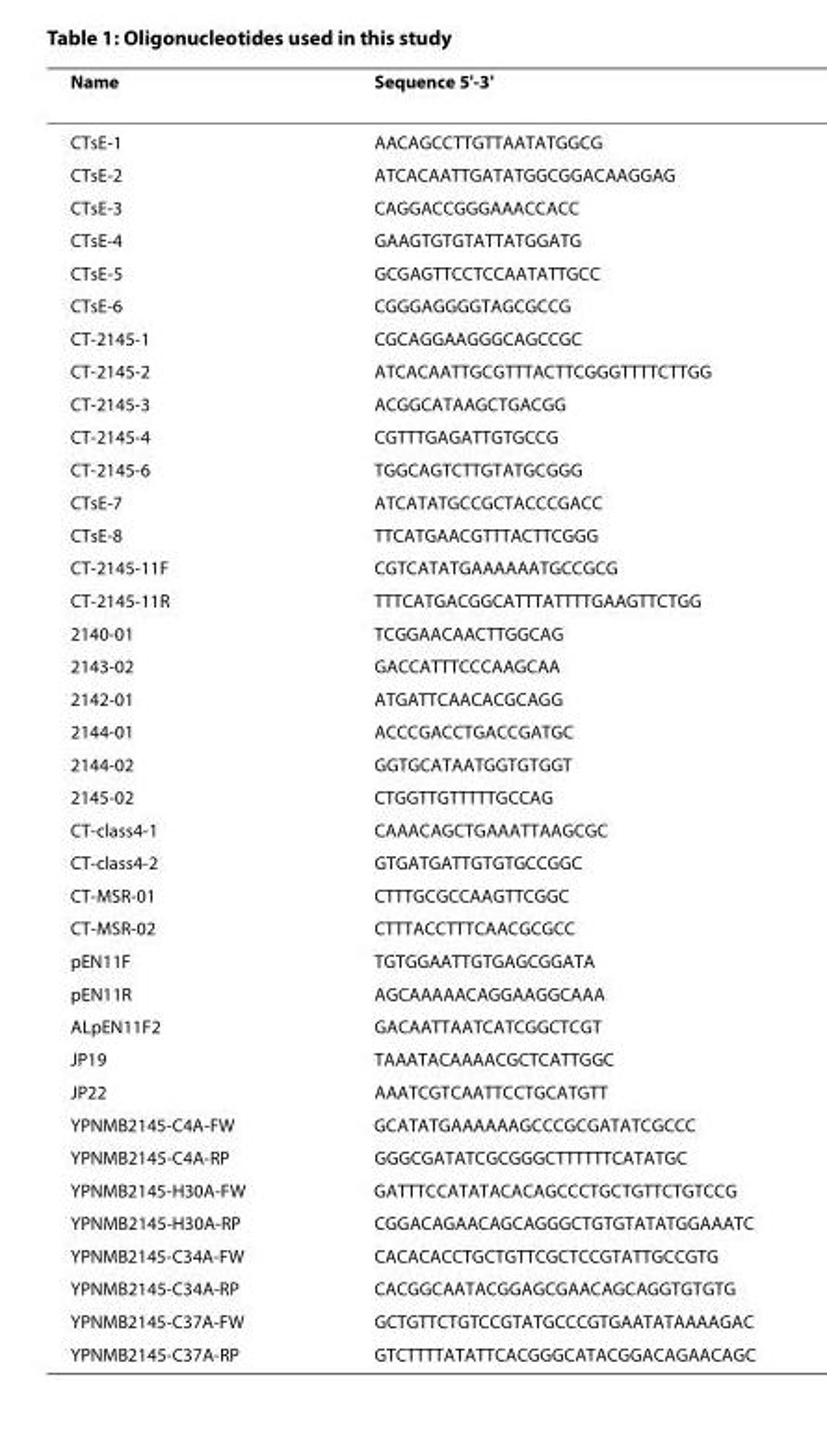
<table><thead><tr><td>Name</td><td>Sequence 5&#x27;-3&#x27;</td></tr></thead><tbody><tr><td>CTsE-1</td><td>AACAGCCTTGTTAATATGGCG</td></tr><tr><td>CTsE-2</td><td>ATCACAATTGATATGGCGGACAAGGAG</td></tr><tr><td>CTsE-3</td><td>CAGGACCGGGAAACCACC</td></tr><tr><td>CTsE-4</td><td>GAAGTGTGTATTATGGATG</td></tr><tr><td>CTsE-5</td><td>GCGAGTTCCTCCAATATTGCC</td></tr><tr><td>CTsE-6</td><td>CGGGAGGGGTAGCGCCG</td></tr><tr><td>CT-2145-1</td><td>CGCAGGAAGGGCAGCCGC</td></tr><tr><td>CT-2145-2</td><td>ATCACAATTGCGTTTACTTCGGGTTTTCTTGG</td></tr><tr><td>CT-2145-3</td><td>ACGGCATAAGCTGACGG</td></tr><tr><td>CT-2145-4</td><td>CGTTTGAGATTGTGCCG</td></tr><tr><td>CT-2145-6</td><td>TGGCAGTCTTGTATGCGGG</td></tr><tr><td>CTsE-7</td><td>ATCATATGCCGCTACCCGACC</td></tr><tr><td>CTsE-8</td><td>TTCATGAACGTTTACTTCGGG</td></tr><tr><td>CT-2145-11F</td><td>CGTCATATGAAAAAATGCCGCG</td></tr><tr><td>CT-2145-11R</td><td>TTTCATGACGGCATTTATTTTGAAGTTCTGG</td></tr><tr><td>2140-01</td><td>TCGGAACAACTTGGCAG</td></tr><tr><td>2143-02</td><td>GACCATTTCCCAAGCAA</td></tr><tr><td>2142-01</td><td>ATGATTCAACACGCAGG</td></tr><tr><td>2144-01</td><td>ACCCGACCTGACCGATGC</td></tr><tr><td>2144-02</td><td>GGTGCATAATGGTGTGGT</td></tr><tr><td>2145-02</td><td>CTGGTTGTTTTTGCCAG</td></tr><tr><td>CT-class4-1</td><td>CAAACAGCTGAAATTAAGCGC</td></tr><tr><td>CT-class4-2</td><td>GTGATGATTGTGTGCCGGC</td></tr><tr><td>CT-MSR-01</td><td>CTTTGCGCCAAGTTCGGC</td></tr><tr><td>CT-MSR-02</td><td>CTTTACCTTTCAACGCGCC</td></tr><tr><td>pEN11F</td><td>TGTGGAATTGTGAGCGGATA</td></tr><tr><td>pEN11R</td><td>AGCAAAAACAGGAAGGCAAA</td></tr><tr><td>ALpEN11F2</td><td>GACAATTAATCATCGGCTCGT</td></tr><tr><td>JP19</td><td>TAAATACAAAACGCTCATTGGC</td></tr><tr><td>JP22</td><td>AAATCGTCAATTCCTGCATGTT</td></tr><tr><td>YPNMB2145-C4A-FW</td><td>GCATATGAAAAAAGCCCGCGATATCGCCC</td></tr><tr><td>YPNMB2145-C4A-RP</td><td>GGGCGATATCGCGGGCTTTTTTCATATGC</td></tr><tr><td>YPNMB2145-H30A-FW</td><td>GATTTCCATATACACAGCCCTGCTGTTCTGTCCG</td></tr><tr><td>YPNMB2145-H30A-RP</td><td>CGGACAGAACAGCAGGGCTGTGTATATGGAAATC</td></tr><tr><td>YPNMB2145-C34A-FW</td><td>CACACACCTGCTGTTCGCTCCGTATTGCCGTG</td></tr><tr><td>YPNMB2145-C34A-RP</td><td>CACGGCAATACGGAGCGAACAGCAGGTGTGTG</td></tr><tr><td>YPNMB2145-C37A-FW</td><td>GCTGTTCTGTCCGTATGCCCGTGAATATAAAAGAC</td></tr><tr><td>YPNMB2145-C37A-RP</td><td>GTCTTTTATATTCACGGGCATACGGACAGAACAGC</td></tr></tbody></table>